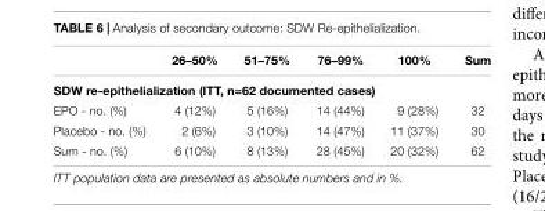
<table><thead><tr><td></td><td>26–50%</td><td>51–75%</td><td>76–99%</td><td>100%</td><td>Sum</td></tr></thead><tbody><tr><td colspan="6">SDW re-epithelialization (ITT, n=62 documented cases)</td></tr><tr><td>EPO - no. (%)</td><td>4 (12%)</td><td>5 (16%)</td><td>14 (44%)</td><td>9 (28%)</td><td>32</td></tr><tr><td>Placebo - no. (%)</td><td>2 (6%)</td><td>3 (10%)</td><td>14 (47%)</td><td>11 (37%)</td><td>30</td></tr><tr><td>Sum - no. (%)</td><td>6 (10%)</td><td>8 (13%)</td><td>28 (45%)</td><td>20 (32%)</td><td>62</td></tr></tbody></table>